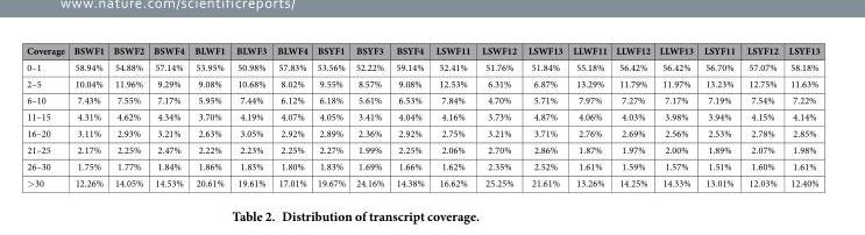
<table><thead><tr><td>Coverage</td><td>BSWF1</td><td>BSWF2</td><td>BSWF4</td><td>BLWF1</td><td>BLWF3</td><td>BLWF4</td><td>BSYF1</td><td>BSYF3</td><td>BSYF4</td><td>LSWF11</td><td>LSWF12</td><td>LSWF13</td><td>LLWF11</td><td>LLWF12</td><td>LLWF13</td><td>LSYF11</td><td>LSYF12</td><td>LSYF13</td></tr></thead><tbody><tr><td>0–1</td><td>58.94%</td><td>54.88%</td><td>57.14%</td><td>53.95%</td><td>50.98%</td><td>57.83%</td><td>53.56%</td><td>52.22%</td><td>59.14%</td><td>52.41%</td><td>51.76%</td><td>51.84%</td><td>55.18%</td><td>56.42%</td><td>56.42%</td><td>56.70%</td><td>57.07%</td><td>58.18%</td></tr><tr><td>2–5</td><td>10.04%</td><td>11.96%</td><td>9.29%</td><td>9.08%</td><td>10.68%</td><td>8.02%</td><td>9.55%</td><td>8.57%</td><td>9.08%</td><td>12.53%</td><td>6.31%</td><td>6.87%</td><td>13.29%</td><td>11.79%</td><td>11.97%</td><td>13.23%</td><td>12.75%</td><td>11.63%</td></tr><tr><td>6–10</td><td>7.43%</td><td>7.55%</td><td>7.17%</td><td>5.95%</td><td>7.44%</td><td>6.12%</td><td>6.18%</td><td>5.61%</td><td>6.53%</td><td>7.84%</td><td>4.70%</td><td>5.71%</td><td>7.97%</td><td>7.27%</td><td>7.17%</td><td>7.19%</td><td>7.54%</td><td>7.22%</td></tr><tr><td>11–15</td><td>4.31%</td><td>4.62%</td><td>4.34%</td><td>3.70%</td><td>4.19%</td><td>4.07%</td><td>4.05%</td><td>3.41%</td><td>4.04%</td><td>4.16%</td><td>3.73%</td><td>4.87%</td><td>4.06%</td><td>4.03%</td><td>3.98%</td><td>3.94%</td><td>4.15%</td><td>4.14%</td></tr><tr><td>16–20</td><td>3.11%</td><td>2.93%</td><td>3.21%</td><td>2.63%</td><td>3.05%</td><td>2.92%</td><td>2.89%</td><td>2.36%</td><td>2.92%</td><td>2.75%</td><td>3.21%</td><td>3.71%</td><td>2.76%</td><td>2.69%</td><td>2.56%</td><td>2.53%</td><td>2.78%</td><td>2.85%</td></tr><tr><td>21–25</td><td>2.17%</td><td>2.25%</td><td>2.47%</td><td>2.22%</td><td>2.23%</td><td>2.25%</td><td>2.27%</td><td>1.99%</td><td>2.25%</td><td>2.06%</td><td>2.70%</td><td>2.86%</td><td>1.87%</td><td>1.97%</td><td>2.00%</td><td>1.89%</td><td>2.07%</td><td>1.98%</td></tr><tr><td>26–30</td><td>1.75%</td><td>1.77%</td><td>1.84%</td><td>1.86%</td><td>1.83%</td><td>1.80%</td><td>1.83%</td><td>1.69%</td><td>1.66%</td><td>1.62%</td><td>2.35%</td><td>2.52%</td><td>1.61%</td><td>1.59%</td><td>1.57%</td><td>1.51%</td><td>1.60%</td><td>1.61%</td></tr><tr><td>&gt;30</td><td>12.26%</td><td>14.05%</td><td>14.53%</td><td>20.61%</td><td>19.61%</td><td>17.01%</td><td>19.67%</td><td>24.16%</td><td>14.38%</td><td>16.62%</td><td>25.25%</td><td>21.61%</td><td>13.26%</td><td>14.25%</td><td>14.33%</td><td>13.01%</td><td>12.03%</td><td>12.40%</td></tr></tbody></table>